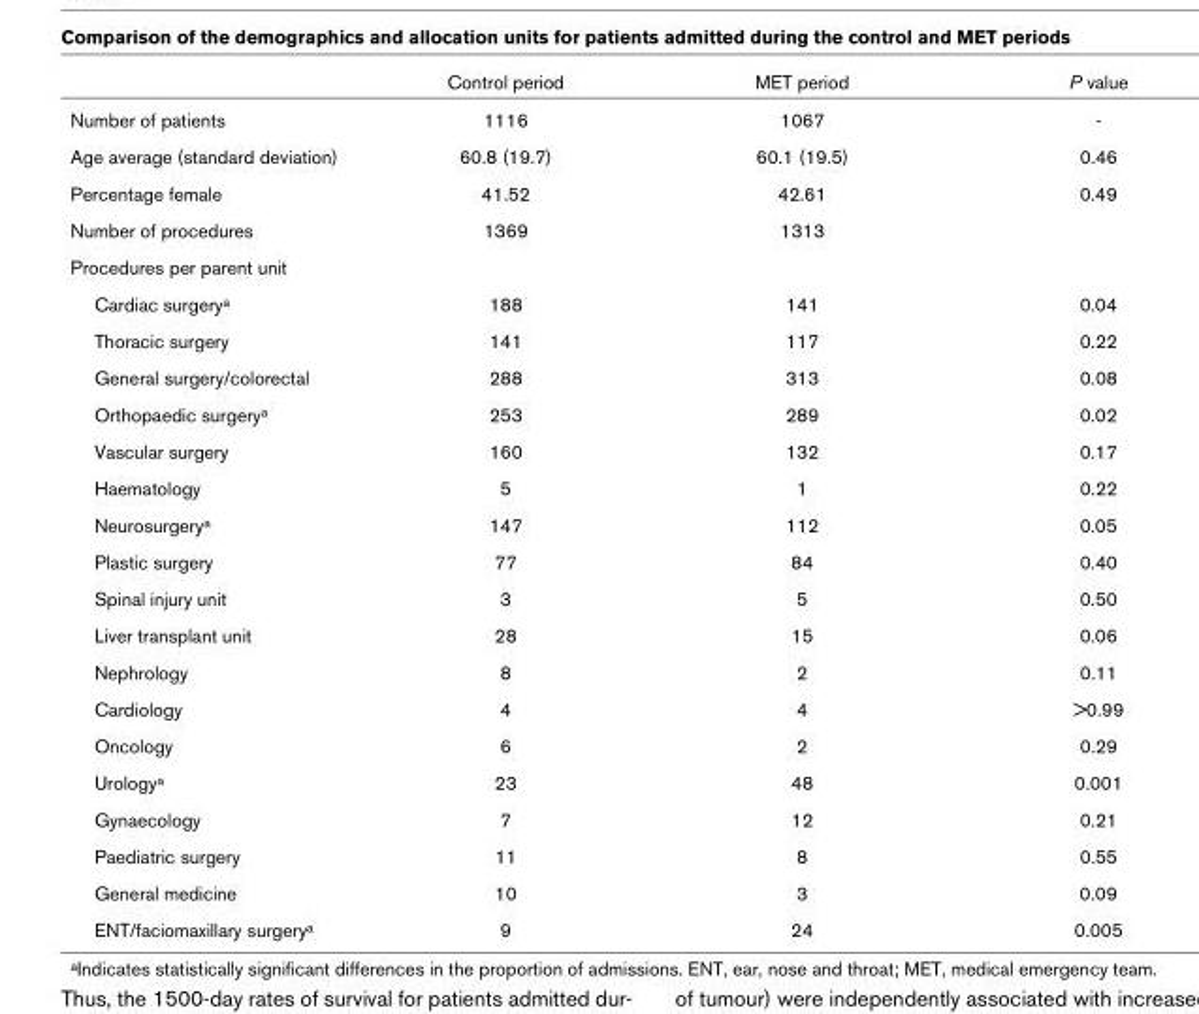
<table><thead><tr><td></td><td>Control period</td><td>MET period</td><td>P value</td></tr></thead><tbody><tr><td>Number of patients</td><td>1116</td><td>1067</td><td>-</td></tr><tr><td>Age average (standard deviation)</td><td>60.8 (19.7)</td><td>60.1 (19.5)</td><td>0.46</td></tr><tr><td>Percentage female</td><td>41.52</td><td>42.61</td><td>0.49</td></tr><tr><td>Number of procedures</td><td>1369</td><td>1313</td><td></td></tr><tr><td colspan="4">Procedures per parent unit</td></tr><tr><td>Cardiac surgery<sup>a</sup></td><td>188</td><td>141</td><td>0.04</td></tr><tr><td>Thoracic surgery</td><td>141</td><td>117</td><td>0.22</td></tr><tr><td>General surgery/colorectal</td><td>288</td><td>313</td><td>0.08</td></tr><tr><td>Orthopaedic surgery<sup>a</sup></td><td>253</td><td>289</td><td>0.02</td></tr><tr><td>Vascular surgery</td><td>160</td><td>132</td><td>0.17</td></tr><tr><td>Haematology</td><td>5</td><td>1</td><td>0.22</td></tr><tr><td>Neurosurgery<sup>a</sup></td><td>147</td><td>112</td><td>0.05</td></tr><tr><td>Plastic surgery</td><td>77</td><td>84</td><td>0.40</td></tr><tr><td>Spinal injury unit</td><td>3</td><td>5</td><td>0.50</td></tr><tr><td>Liver transplant unit</td><td>28</td><td>15</td><td>0.06</td></tr><tr><td>Nephrology</td><td>8</td><td>2</td><td>0.11</td></tr><tr><td>Cardiology</td><td>4</td><td>4</td><td>&gt;0.99</td></tr><tr><td>Oncology</td><td>6</td><td>2</td><td>0.29</td></tr><tr><td>Urology<sup>a</sup></td><td>23</td><td>48</td><td>0.001</td></tr><tr><td>Gynaecology</td><td>7</td><td>12</td><td>0.21</td></tr><tr><td>Paediatric surgery</td><td>11</td><td>8</td><td>0.55</td></tr><tr><td>General medicine</td><td>10</td><td>3</td><td>0.09</td></tr><tr><td>ENT/faciomaxillary surgery<sup>a</sup></td><td>9</td><td>24</td><td>0.005</td></tr></tbody></table>